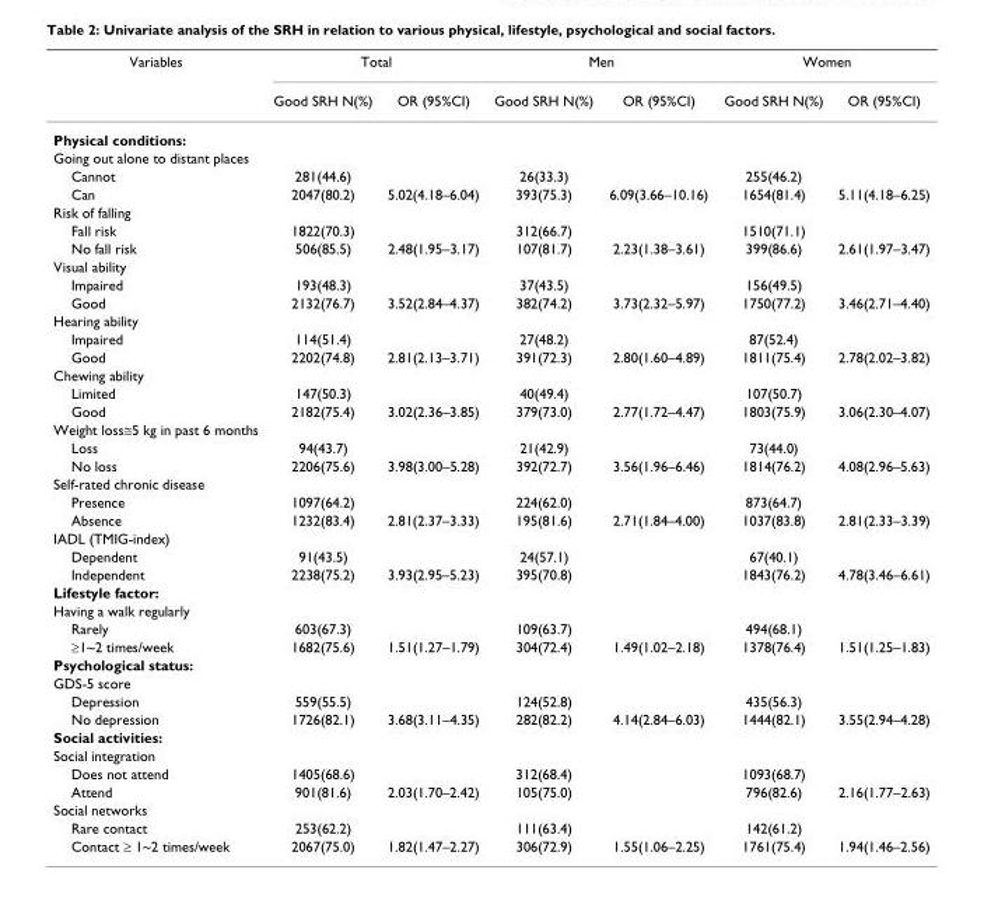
<table><thead><tr><td rowspan="2">Variables</td><td colspan="2">Total</td><td colspan="2">Men</td><td colspan="2">Women</td></tr><tr><td>Good SRH N(%)</td><td>OR (95%CI)</td><td>Good SRH N(%)</td><td>OR (95%CI)</td><td>Good SRH N(%)</td><td>OR (95%CI)</td></tr></thead><tbody><tr><td colspan="7">Physical conditions:</td></tr><tr><td colspan="7">Going out alone to distant places</td></tr><tr><td>Cannot</td><td>281(44.6)</td><td></td><td>26(33.3)</td><td></td><td>255(46.2)</td><td></td></tr><tr><td>Can</td><td>2047(80.2)</td><td>5.02(4.18–6.04)</td><td>393(75.3)</td><td>6.09(3.66–10.16)</td><td>1654(81.4)</td><td>5.11(4.18–6.25)</td></tr><tr><td colspan="7">Risk of falling</td></tr><tr><td>Fall risk</td><td>1822(70.3)</td><td></td><td>312(66.7)</td><td></td><td>1510(71.1)</td><td></td></tr><tr><td>No fall risk</td><td>506(85.5)</td><td>2.48(1.95–3.17)</td><td>107(81.7)</td><td>2.23(1.38–3.61)</td><td>399(86.6)</td><td>2.61(1.97–3.47)</td></tr><tr><td colspan="7">Visual ability</td></tr><tr><td>Impaired</td><td>193(48.3)</td><td></td><td>37(43.5)</td><td></td><td>156(49.5)</td><td></td></tr><tr><td>Good</td><td>2132(76.7)</td><td>3.52(2.84–4.37)</td><td>382(74.2)</td><td>3.73(2.32–5.97)</td><td>1750(77.2)</td><td>3.46(2.71–4.40)</td></tr><tr><td colspan="7">Hearing ability</td></tr><tr><td>Impaired</td><td>114(51.4)</td><td></td><td>27(48.2)</td><td></td><td>87(52.4)</td><td></td></tr><tr><td>Good</td><td>2202(74.8)</td><td>2.81(2.13–3.71)</td><td>391(72.3)</td><td>2.80(1.60–4.89)</td><td>1811(75.4)</td><td>2.78(2.02–3.82)</td></tr><tr><td colspan="7">Chewing ability</td></tr><tr><td>Limited</td><td>147(50.3)</td><td></td><td>40(49.4)</td><td></td><td>107(50.7)</td><td></td></tr><tr><td>Good</td><td>2182(75.4)</td><td>3.02(2.36–3.85)</td><td>379(73.0)</td><td>2.77(1.72–4.47)</td><td>1803(75.9)</td><td>3.06(2.30–4.07)</td></tr><tr><td colspan="7">Weight loss≅5 kg in past 6 months</td></tr><tr><td>Loss</td><td>94(43.7)</td><td></td><td>21(42.9)</td><td></td><td>73(44.0)</td><td></td></tr><tr><td>No loss</td><td>2206(75.6)</td><td>3.98(3.00–5.28)</td><td>392(72.7)</td><td>3.56(1.96–6.46)</td><td>1814(76.2)</td><td>4.08(2.96–5.63)</td></tr><tr><td colspan="7">Self-rated chronic disease</td></tr><tr><td>Presence</td><td>1097(64.2)</td><td></td><td>224(62.0)</td><td></td><td>873(64.7)</td><td></td></tr><tr><td>Absence</td><td>1232(83.4)</td><td>2.81(2.37–3.33)</td><td>195(81.6)</td><td>2.71(1.84–4.00)</td><td>1037(83.8)</td><td>2.81(2.33–3.39)</td></tr><tr><td colspan="7">IADL (TMIG-index)</td></tr><tr><td>Dependent</td><td>91(43.5)</td><td></td><td>24(57.1)</td><td></td><td>67(40.1)</td><td></td></tr><tr><td>Independent</td><td>2238(75.2)</td><td>3.93(2.95–5.23)</td><td>395(70.8)</td><td></td><td>1843(76.2)</td><td>4.78(3.46–6.61)</td></tr><tr><td colspan="7">Lifestyle factor:</td></tr><tr><td colspan="7">Having a walk regularly</td></tr><tr><td>Rarely</td><td>603(67.3)</td><td></td><td>109(63.7)</td><td></td><td>494(68.1)</td><td></td></tr><tr><td>≥1~2 times/week</td><td>1682(75.6)</td><td>1.51(1.27–1.79)</td><td>304(72.4)</td><td>1.49(1.02–2.18)</td><td>1378(76.4)</td><td>1.51(1.25–1.83)</td></tr><tr><td colspan="7">Psychological status:</td></tr><tr><td colspan="7">GDS-5 score</td></tr><tr><td>Depression</td><td>559(55.5)</td><td></td><td>124(52.8)</td><td></td><td>435(56.3)</td><td></td></tr><tr><td>No depression</td><td>1726(82.1)</td><td>3.68(3.11–4.35)</td><td>282(82.2)</td><td>4.14(2.84–6.03)</td><td>1444(82.1)</td><td>3.55(2.94–4.28)</td></tr><tr><td colspan="7">Social activities:</td></tr><tr><td colspan="7">Social integration</td></tr><tr><td>Does not attend</td><td>1405(68.6)</td><td></td><td>312(68.4)</td><td></td><td>1093(68.7)</td><td></td></tr><tr><td>Attend</td><td>901(81.6)</td><td>2.03(1.70–2.42)</td><td>105(75.0)</td><td></td><td>796(82.6)</td><td>2.16(1.77–2.63)</td></tr><tr><td colspan="7">Social networks</td></tr><tr><td>Rare contact</td><td>253(62.2)</td><td></td><td>111(63.4)</td><td></td><td>142(61.2)</td><td></td></tr><tr><td>Contact ≥ 1~2 times/week</td><td>2067(75.0)</td><td>1.82(1.47–2.27)</td><td>306(72.9)</td><td>1.55(1.06–2.25)</td><td>1761(75.4)</td><td>1.94(1.46–2.56)</td></tr></tbody></table>